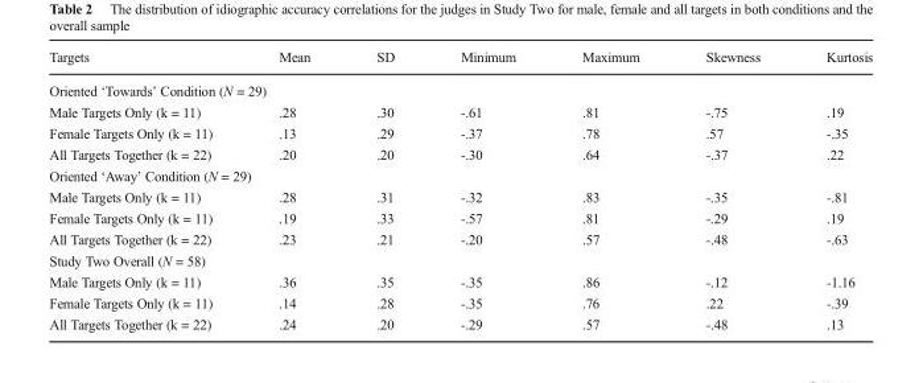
<table><thead><tr><td>Targets</td><td>Mean</td><td>SD</td><td>Minimum</td><td>Maximum</td><td>Skewness</td><td>Kurtosis</td></tr></thead><tbody><tr><td colspan="7">Oriented ‘Towards’ Condition (N = 29)</td></tr><tr><td>Male Targets Only (k = 11)</td><td>.28</td><td>.30</td><td>-.61</td><td>.81</td><td>-.75</td><td>.19</td></tr><tr><td>Female Targets Only (k = 11)</td><td>.13</td><td>.29</td><td>-.37</td><td>.78</td><td>.57</td><td>-.35</td></tr><tr><td>All Targets Together (k = 22)</td><td>.20</td><td>.20</td><td>-.30</td><td>.64</td><td>-.37</td><td>.22</td></tr><tr><td colspan="7">Oriented ‘Away’ Condition (N = 29)</td></tr><tr><td>Male Targets Only (k = 11)</td><td>.28</td><td>.31</td><td>-.32</td><td>.83</td><td>-.35</td><td>-.81</td></tr><tr><td>Female Targets Only (k = 11)</td><td>.19</td><td>.33</td><td>-.57</td><td>.81</td><td>-.29</td><td>.19</td></tr><tr><td>All Targets Together (k = 22)</td><td>.23</td><td>.21</td><td>-.20</td><td>.57</td><td>-.48</td><td>-.63</td></tr><tr><td colspan="7">Study Two Overall (N = 58)</td></tr><tr><td>Male Targets Only (k = 11)</td><td>.36</td><td>.35</td><td>-.35</td><td>.86</td><td>-.12</td><td>-1.16</td></tr><tr><td>Female Targets Only (k = 11)</td><td>.14</td><td>.28</td><td>-.35</td><td>.76</td><td>.22</td><td>-.39</td></tr><tr><td>All Targets Together (k = 22)</td><td>.24</td><td>.20</td><td>-.29</td><td>.57</td><td>-.48</td><td>.13</td></tr></tbody></table>